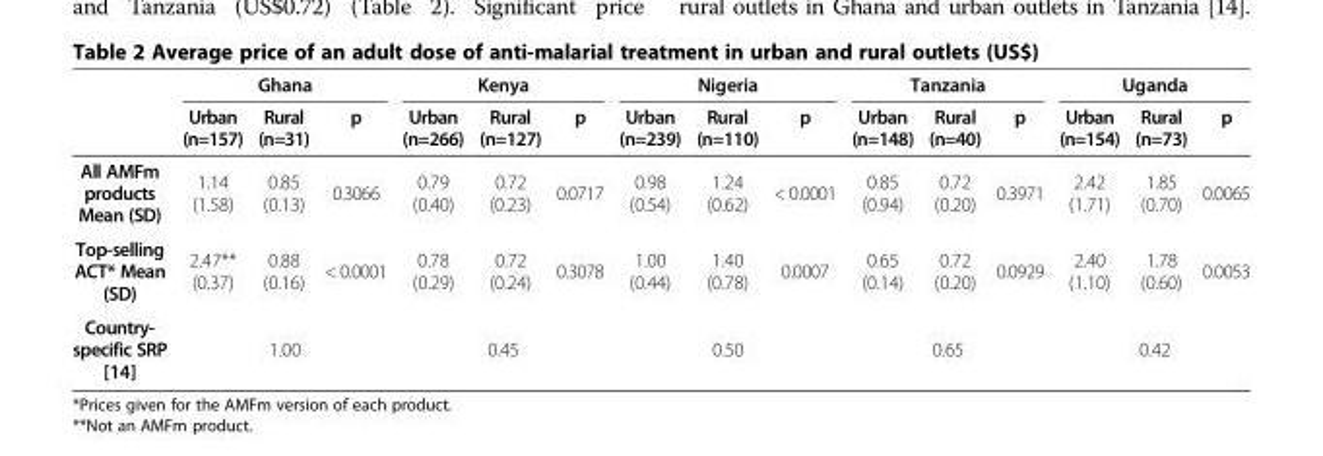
<table><thead><tr><td rowspan="2"></td><td colspan="3">Ghana</td><td colspan="3">Kenya</td><td colspan="3">Nigeria</td><td colspan="3">Tanzania</td><td colspan="3">Uganda</td></tr><tr><td>Urban (n=157)</td><td>Rural (n=31)</td><td>p</td><td>Urban (n=266)</td><td>Rural (n=127)</td><td>p</td><td>Urban (n=239)</td><td>Rural (n=110)</td><td>p</td><td>Urban (n=148)</td><td>Rural (n=40)</td><td>p</td><td>Urban (n=154)</td><td>Rural (n=73)</td><td>p</td></tr></thead><tbody><tr><td>All AMFm products Mean (SD)</td><td>1.14 (1.58)</td><td>0.85 (0.13)</td><td>0.3066</td><td>0.79 (0.40)</td><td>0.72 (0.23)</td><td>0.0717</td><td>0.98 (0.54)</td><td>1.24 (0.62)</td><td>&lt; 0.0001</td><td>0.85 (0.94)</td><td>0.72 (0.20)</td><td>0.3971</td><td>2.42 (1.71)</td><td>1.85 (0.70)</td><td>0.0065</td></tr><tr><td>Top-selling ACT* Mean (SD)</td><td>2.47** (0.37)</td><td>0.88 (0.16)</td><td>&lt; 0.0001</td><td>0.78 (0.29)</td><td>0.72 (0.24)</td><td>0.3078</td><td>1.00 (0.44)</td><td>1.40 (0.78)</td><td>0.0007</td><td>0.65 (0.14)</td><td>0.72 (0.20)</td><td>0.0929</td><td>2.40 (1.10)</td><td>1.78 (0.60)</td><td>0.0053</td></tr><tr><td>Country- specific SRP [14]</td><td colspan="3">1.00</td><td colspan="3">0.45</td><td colspan="3">0.50</td><td colspan="3">0.65</td><td colspan="3">0.42</td></tr></tbody></table>